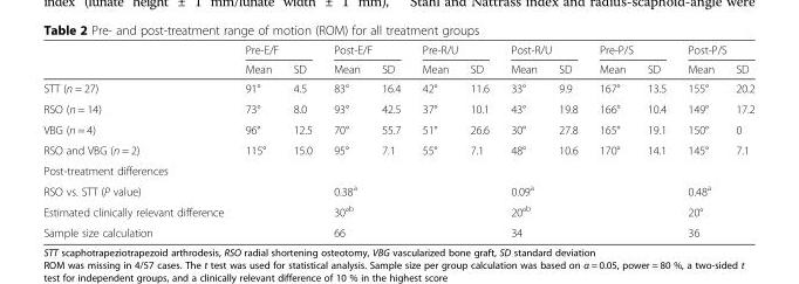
<table><thead><tr><td rowspan="2"></td><td colspan="2">Pre-E/F</td><td colspan="2">Post-E/F</td><td colspan="2">Pre-R/U</td><td colspan="2">Post-R/U</td><td colspan="2">Pre-P/S</td><td colspan="2">Post-P/S</td></tr><tr><td>Mean</td><td>SD</td><td>Mean</td><td>SD</td><td>Mean</td><td>SD</td><td>Mean</td><td>SD</td><td>Mean</td><td>SD</td><td>Mean</td><td>SD</td></tr></thead><tbody><tr><td>STT (n = 27)</td><td>91°</td><td>4.5</td><td>83°</td><td>16.4</td><td>42°</td><td>11.6</td><td>33°</td><td>9.9</td><td>167°</td><td>13.5</td><td>155°</td><td>20.2</td></tr><tr><td>RSO (n = 14)</td><td>73°</td><td>8.0</td><td>93°</td><td>42.5</td><td>37°</td><td>10.1</td><td>43°</td><td>19.8</td><td>166°</td><td>10.4</td><td>149°</td><td>17.2</td></tr><tr><td>VBG (n = 4)</td><td>96°</td><td>12.5</td><td>70°</td><td>55.7</td><td>51°</td><td>26.6</td><td>30°</td><td>27.8</td><td>165°</td><td>19.1</td><td>150°</td><td>0</td></tr><tr><td>RSO and VBG (n = 2)</td><td>115°</td><td>15.0</td><td>95°</td><td>7.1</td><td>55°</td><td>7.1</td><td>48°</td><td>10.6</td><td>170°</td><td>14.1</td><td>145°</td><td>7.1</td></tr><tr><td colspan="13">Post-treatment differences</td></tr><tr><td>RSO vs. STT (P value)</td><td></td><td></td><td colspan="2">0.38<sup>a</sup></td><td></td><td></td><td colspan="2">0.09<sup>a</sup></td><td></td><td></td><td colspan="2">0.48<sup>a</sup></td></tr><tr><td>Estimated clinically relevant difference</td><td></td><td></td><td colspan="2">30°<sup>b</sup></td><td></td><td></td><td colspan="2">20°<sup>b</sup></td><td></td><td></td><td colspan="2">20°</td></tr><tr><td>Sample size calculation</td><td></td><td></td><td colspan="2">66</td><td></td><td></td><td colspan="2">34</td><td></td><td></td><td colspan="2">36</td></tr></tbody></table>